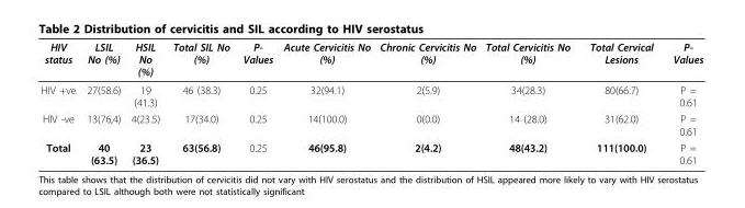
<table><thead><tr><td>HIV status</td><td>LSIL No (%)</td><td>HSIL No (%)</td><td>Total SIL No (%)</td><td>P- Values</td><td>Acute Cervicitis No (%)</td><td>Chronic Cervicitis No (%)</td><td>Total Cervicitis No (%)</td><td>Total Cervical Lesions</td><td>P- Values</td></tr></thead><tbody><tr><td>HIV +ve</td><td>27(58.6)</td><td>19 (41.3)</td><td>46 (38.3)</td><td>0.25</td><td>32(94.1)</td><td>2(5.9)</td><td>34(28.3)</td><td>80(66.7)</td><td>P = 0.61</td></tr><tr><td>HIV -ve</td><td>13(76,4)</td><td>4(23.5)</td><td>17(34.0)</td><td>0.25</td><td>14(100.0)</td><td>0(0.0)</td><td>14 (28.0)</td><td>31(62.0)</td><td>P = 0.61</td></tr><tr><td>Total</td><td>40 (63.5)</td><td>23 (36.5)</td><td>63(56.8)</td><td>0.25</td><td>46(95.8)</td><td>2(4.2)</td><td>48(43.2)</td><td>111(100.0)</td><td>P = 0.61</td></tr></tbody></table>